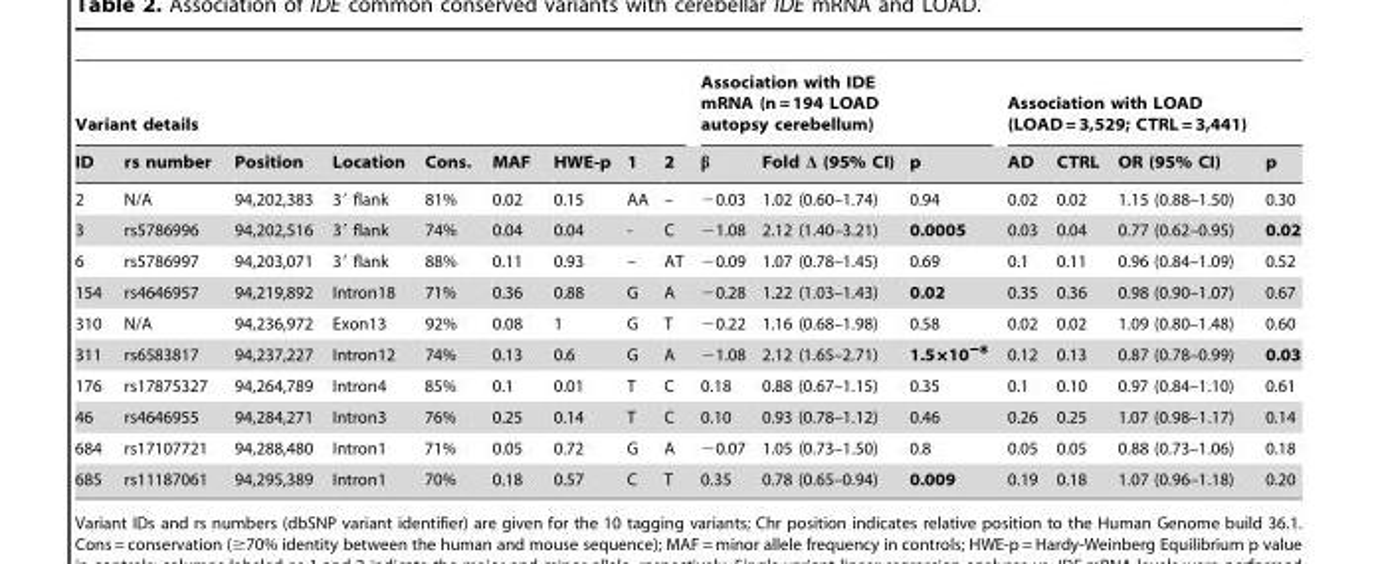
<table><thead><tr><td colspan="9">Variant details</td><td colspan="3">Association with IDE mRNA (n = 194 LOAD autopsy cerebellum)</td><td colspan="4">Association with LOAD (LOAD = 3,529; CTRL = 3,441)</td></tr><tr><td>ID</td><td>rs number</td><td>Position</td><td>Location</td><td>Cons.</td><td>MAF</td><td>HWE-p</td><td>1</td><td>2</td><td>β</td><td>Fold Δ (95% CI)</td><td>p</td><td>AD</td><td>CTRL</td><td>OR (95% CI)</td><td>p</td></tr></thead><tbody><tr><td>2</td><td>N/A</td><td>94,202,383</td><td>3′ flank</td><td>81%</td><td>0.02</td><td>0.15</td><td>AA</td><td>–</td><td>−0.03</td><td>1.02 (0.60–1.74)</td><td>0.94</td><td>0.02</td><td>0.02</td><td>1.15 (0.88–1.50)</td><td>0.30</td></tr><tr><td>3</td><td>rs5786996</td><td>94,202,516</td><td>3′ flank</td><td>74%</td><td>0.04</td><td>0.04</td><td>-</td><td>C</td><td>−1.08</td><td>2.12 (1.40–3.21)</td><td>0.0005</td><td>0.03</td><td>0.04</td><td>0.77 (0.62–0.95)</td><td>0.02</td></tr><tr><td>6</td><td>rs5786997</td><td>94,203,071</td><td>3′ flank</td><td>88%</td><td>0.11</td><td>0.93</td><td>–</td><td>AT</td><td>−0.09</td><td>1.07 (0.78–1.45)</td><td>0.69</td><td>0.1</td><td>0.11</td><td>0.96 (0.84–1.09)</td><td>0.52</td></tr><tr><td>154</td><td>rs4646957</td><td>94,219,892</td><td>Intron18</td><td>71%</td><td>0.36</td><td>0.88</td><td>G</td><td>A</td><td>−0.28</td><td>1.22 (1.03–1.43)</td><td>0.02</td><td>0.35</td><td>0.36</td><td>0.98 (0.90–1.07)</td><td>0.67</td></tr><tr><td>310</td><td>N/A</td><td>94,236,972</td><td>Exon13</td><td>92%</td><td>0.08</td><td>1</td><td>G</td><td>T</td><td>−0.22</td><td>1.16 (0.68–1.98)</td><td>0.58</td><td>0.02</td><td>0.02</td><td>1.09 (0.80–1.48)</td><td>0.60</td></tr><tr><td>311</td><td>rs6583817</td><td>94,237,227</td><td>Intron12</td><td>74%</td><td>0.13</td><td>0.6</td><td>G</td><td>A</td><td>−1.08</td><td>2.12 (1.65–2.71)</td><td>1.5×10<sup>−8</sup></td><td>0.12</td><td>0.13</td><td>0.87 (0.78–0.99)</td><td>0.03</td></tr><tr><td>176</td><td>rs17875327</td><td>94,264,789</td><td>Intron4</td><td>85%</td><td>0.1</td><td>0.01</td><td>T</td><td>C</td><td>0.18</td><td>0.88 (0.67–1.15)</td><td>0.35</td><td>0.1</td><td>0.10</td><td>0.97 (0.84–1.10)</td><td>0.61</td></tr><tr><td>46</td><td>rs4646955</td><td>94,284,271</td><td>Intron3</td><td>76%</td><td>0.25</td><td>0.14</td><td>T</td><td>C</td><td>0.10</td><td>0.93 (0.78–1.12)</td><td>0.46</td><td>0.26</td><td>0.25</td><td>1.07 (0.98–1.17)</td><td>0.14</td></tr><tr><td>684</td><td>rs17107721</td><td>94,288,480</td><td>Intron1</td><td>71%</td><td>0.05</td><td>0.72</td><td>G</td><td>A</td><td>−0.07</td><td>1.05 (0.73–1.50)</td><td>0.8</td><td>0.05</td><td>0.05</td><td>0.88 (0.73–1.06)</td><td>0.18</td></tr><tr><td>685</td><td>rs11187061</td><td>94,295,389</td><td>Intron1</td><td>70%</td><td>0.18</td><td>0.57</td><td>C</td><td>T</td><td>0.35</td><td>0.78 (0.65–0.94)</td><td>0.009</td><td>0.19</td><td>0.18</td><td>1.07 (0.96–1.18)</td><td>0.20</td></tr></tbody></table>